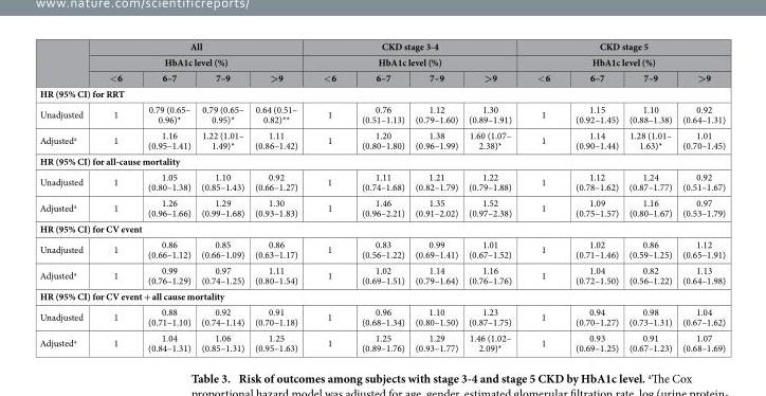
<table><thead><tr><td rowspan="3"></td><td rowspan="2" colspan="4">All HbA1c level (%)</td><td rowspan="2" colspan="4">CKD stage 3-4 HbA1c level (%)</td><td rowspan="2" colspan="4">CKD stage 5 HbA1c level (%)</td></tr><tr></tr><tr><td>&lt; 6</td><td>6–7</td><td>7–9</td><td>&gt;9</td><td>&lt; 6</td><td>6–7</td><td>7–9</td><td>&gt;9</td><td>&lt; 6</td><td>6–7</td><td>7–9</td><td>&gt;9</td></tr></thead><tbody><tr><td colspan="13">HR (95% CI) for RRT</td></tr><tr><td>Unadjusted</td><td>1</td><td>0.79 (0.65– 0.96)*</td><td>0.79 (0.65– 0.95)*</td><td>0.64 (0.51– 0.82)**</td><td>1</td><td>0.76 (0.51–1.13)</td><td>1.12 (0.79–1.60)</td><td>1.30 (0.89–1.91)</td><td>1</td><td>1.15 (0.92–1.45)</td><td>1.10 (0.88–1.38)</td><td>0.92 (0.64–1.31)</td></tr><tr><td>Adjusted<sup>a</sup></td><td>1</td><td>1.16 (0.95–1.41)</td><td>1.22 (1.01– 1.49)*</td><td>1.11 (0.86–1.42)</td><td>1</td><td>1.20 (0.80–1.80)</td><td>1.38 (0.96–1.99)</td><td>1.60 (1.07– 2.38)*</td><td>1</td><td>1.14 (0.90–1.44)</td><td>1.28 (1.01– 1.63)*</td><td>1.01 (0.70–1.45)</td></tr><tr><td colspan="13">HR (95% CI) for all-cause mortality</td></tr><tr><td>Unadjusted</td><td>1</td><td>1.05 (0.80–1.38)</td><td>1.10 (0.85–1.43)</td><td>0.92 (0.66–1.27)</td><td>1</td><td>1.11 (0.74–1.68)</td><td>1.21 (0.82–1.79)</td><td>1.22 (0.79–1.88)</td><td>1</td><td>1.12 (0.78–1.62)</td><td>1.24 (0.87–1.77)</td><td>0.92 (0.51–1.67)</td></tr><tr><td>Adjusted<sup>a</sup></td><td>1</td><td>1.26 (0.96–1.66)</td><td>1.29 (0.99–1.68)</td><td>1.30 (0.93–1.83)</td><td>1</td><td>1.46 (0.96–2.21)</td><td>1.35 (0.91–2.02)</td><td>1.52 (0.97–2.38)</td><td>1</td><td>1.09 (0.75–1.57)</td><td>1.16 (0.80–1.67)</td><td>0.97 (0.53–1.79)</td></tr><tr><td colspan="13">HR (95% CI) for CV event</td></tr><tr><td>Unadjusted</td><td>1</td><td>0.86 (0.66–1.12)</td><td>0.85 (0.66–1.09)</td><td>0.86 (0.63–1.17)</td><td>1</td><td>0.83 (0.56–1.22)</td><td>0.99 (0.69–1.41)</td><td>1.01 (0.67–1.52)</td><td>1</td><td>1.02 (0.71–1.46)</td><td>0.86 (0.59–1.25)</td><td>1.12 (0.65–1.91)</td></tr><tr><td>Adjusted<sup>a</sup></td><td>1</td><td>0.99 (0.76–1.29)</td><td>0.97 (0.74–1.25)</td><td>1.11 (0.80–1.54)</td><td>1</td><td>1.02 (0.69–1.51)</td><td>1.14 (0.79–1.64)</td><td>1.16 (0.76–1.76)</td><td>1</td><td>1.04 (0.72–1.50)</td><td>0.82 (0.56–1.22)</td><td>1.13 (0.64–1.98)</td></tr><tr><td colspan="13">HR (95% CI) for CV event + all cause mortality</td></tr><tr><td>Unadjusted</td><td>1</td><td>0.88 (0.71–1.10)</td><td>0.92 (0.74–1.14)</td><td>0.91 (0.70–1.18)</td><td>1</td><td>0.96 (0.68–1.34)</td><td>1.10 (0.80–1.50)</td><td>1.23 (0.87–1.75)</td><td>1</td><td>0.94 (0.70–1.27)</td><td>0.98 (0.73–1.31)</td><td>1.04 (0.67–1.62)</td></tr><tr><td>Adjusted<sup>a</sup></td><td>1</td><td>1.04 (0.84–1.31)</td><td>1.06 (0.85–1.31)</td><td>1.25 (0.95–1.63)</td><td>1</td><td>1.25 (0.89–1.76)</td><td>1.29 (0.93–1.77)</td><td>1.46 (1.02– 2.09)*</td><td>1</td><td>0.93 (0.69–1.25)</td><td>0.91 (0.67–1.23)</td><td>1.07 (0.68–1.69)</td></tr></tbody></table>